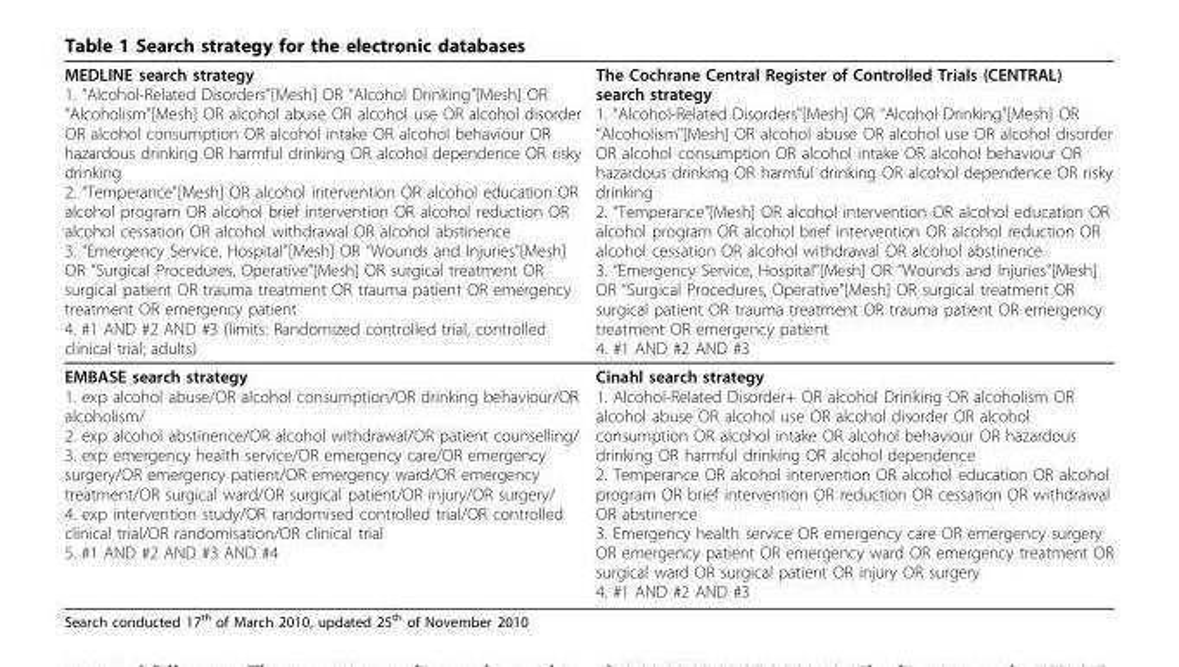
<table><thead><tr><td>MEDLINE search strategy 1. “Alcohol-Related Disorders&quot;[Mesh] OR “Alcohol Drinking&quot;[Mesh] OR “Alcoholism&quot;[Mesh] OR alcohol abuse OR alcohol use OR alcohol disorder OR alcohol consumption OR alcohol intake OR alcohol behaviour OR hazardous drinking OR harmful drinking OR alcohol dependence OR risky drinking 2. “Temperance&quot;[Mesh] OR alcohol intervention OR alcohol education OR alcohol program OR alcohol brief intervention OR alcohol reduction OR alcohol cessation OR alcohol withdrawal OR alcohol abstinence 3. “Emergency Service, Hospital&quot;[Mesh] OR “Wounds and Injuries&quot;[Mesh] OR “Surgical Procedures, Operative&quot;[Mesh] OR surgical treatment OR surgical patient OR trauma treatment OR trauma patient OR emergency treatment OR emergency patient 4. #1 AND #2 AND #3 (limits: Randomized controlled trial, controlled clinical trial; adults)</td><td>The Cochrane Central Register of Controlled Trials (CENTRAL) search strategy 1. “Alcohol-Related Disorders&quot;[Mesh] OR “Alcohol Drinking&quot;[Mesh] OR “Alcoholism&quot;[Mesh] OR alcohol abuse OR alcohol use OR alcohol disorder OR alcohol consumption OR alcohol intake OR alcohol behaviour OR hazardous drinking OR harmful drinking OR alcohol dependence OR risky drinking 2. “Temperance&quot;[Mesh] OR alcohol intervention OR alcohol education OR alcohol program OR alcohol brief intervention OR alcohol reduction OR alcohol cessation OR alcohol withdrawal OR alcohol abstinence 3. “Emergency Service, Hospital&quot;[Mesh] OR “Wounds and Injuries&quot;[Mesh] OR “Surgical Procedures, Operative&quot;[Mesh] OR surgical treatment OR surgical patient OR trauma treatment OR trauma patient OR emergency treatment OR emergency patient 4. #1 AND #2 AND #3</td></tr></thead><tbody><tr><td>EMBASE search strategy 1. exp alcohol abuse/OR alcohol consumption/OR drinking behaviour/OR alcoholism/ 2. exp alcohol abstinence/OR alcohol withdrawal/OR patient counselling/ 3. exp emergency health service/OR emergency care/OR emergency surgery/OR emergency patient/OR emergency ward/OR emergency treatment/OR surgical ward/OR surgical patient/OR injury/OR surgery/ 4. exp intervention study/OR randomised controlled trial/OR controlled clinical trial/OR randomisation/OR clinical trial 5. #1 AND #2 AND #3 AND #4</td><td>Cinahl search strategy 1. Alcohol-Related Disorder+ OR alcohol Drinking OR alcoholism OR alcohol abuse OR alcohol use OR alcohol disorder OR alcohol consumption OR alcohol intake OR alcohol behaviour OR hazardous drinking OR harmful drinking OR alcohol dependence 2. Temperance OR alcohol intervention OR alcohol education OR alcohol program OR brief intervention OR reduction OR cessation OR withdrawal OR abstinence 3. Emergency health service OR emergency care OR emergency surgery OR emergency patient OR emergency ward OR emergency treatment OR surgical ward OR surgical patient OR injury OR surgery 4. #1 AND #2 AND #3</td></tr></tbody></table>